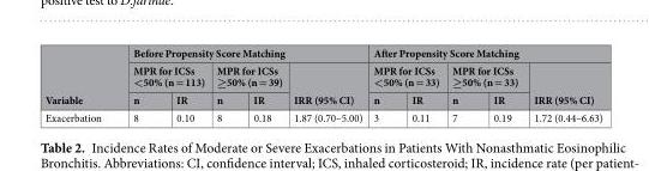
<table><thead><tr><td rowspan="3">Variable</td><td colspan="5">Before Propensity Score Matching</td><td colspan="5">After Propensity Score Matching</td></tr><tr><td colspan="2">MPR for ICSs &lt;50% (n = 113)</td><td colspan="2">MPR for ICSs ≥50% (n = 39)</td><td rowspan="2">IRR (95% CI)</td><td colspan="2">MPR for ICSs &lt;50% (n = 33)</td><td colspan="2">MPR for ICSs ≥50% (n = 33)</td><td rowspan="2">IRR (95% CI)</td></tr><tr><td>n</td><td>IR</td><td>n</td><td>IR</td><td>n</td><td>IR</td><td>n</td><td>IR</td></tr></thead><tbody><tr><td>Exacerbation</td><td>8</td><td>0.10</td><td>8</td><td>0.18</td><td>1.87 (0.70–5.00)</td><td>3</td><td>0.11</td><td>7</td><td>0.19</td><td>1.72 (0.44–6.63)</td></tr></tbody></table>